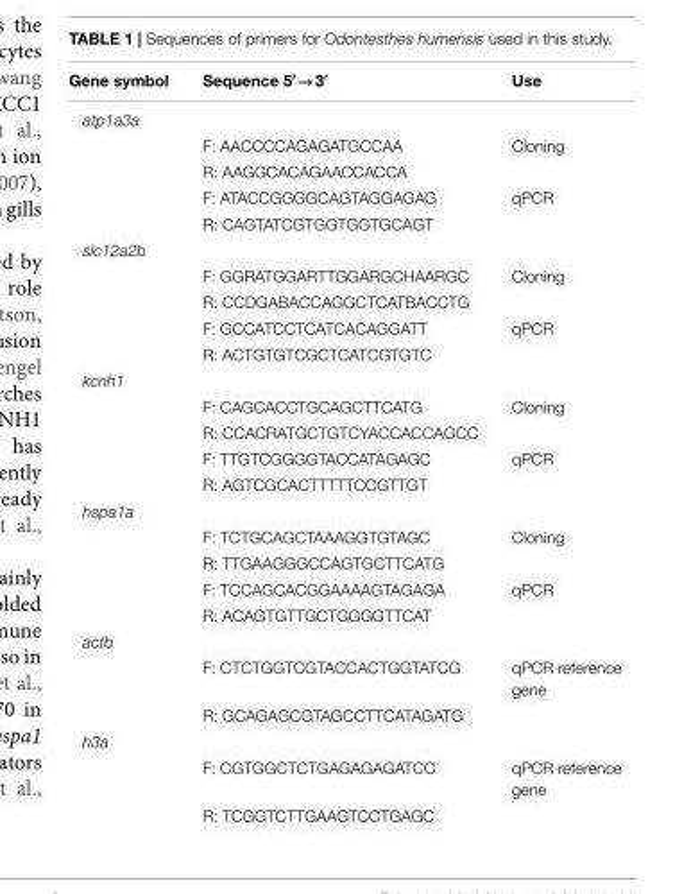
<table><thead><tr><td>Gene symbol</td><td>Sequence 5′→3′</td><td>Use</td></tr></thead><tbody><tr><td colspan="3">atp1a3a</td></tr><tr><td></td><td>F: AACCCCAGAGATGCCAA</td><td>Cloning</td></tr><tr><td></td><td>R: AAGGCACAGAACCACCA</td><td></td></tr><tr><td></td><td>F: ATACCGGGGCAGTAGGAGAG</td><td>qPCR</td></tr><tr><td></td><td>R: CAGTATCGTGGTGGTGCAGT</td><td></td></tr><tr><td colspan="3">slc12a2b</td></tr><tr><td></td><td>F: GGRATGGARTTGGARGCHAARGC</td><td>Cloning</td></tr><tr><td></td><td>R: CCDGABACCAGGCTCATBACCTG</td><td></td></tr><tr><td></td><td>F: GCCATCCTCATCACAGGATT</td><td>qPCR</td></tr><tr><td></td><td>R: ACTGTGTCGCTCATCGTGTC</td><td></td></tr><tr><td colspan="3">kcnh1</td></tr><tr><td></td><td>F: CAGCACCTGCAGCTTCATG</td><td>Cloning</td></tr><tr><td></td><td>R: CCACRATGCTGTCYACCACCAGCC</td><td></td></tr><tr><td></td><td>F: TTGTCGGGGTACCATAGAGC</td><td>qPCR</td></tr><tr><td></td><td>R: AGTCGCACTTTTTCCGTTGT</td><td></td></tr><tr><td colspan="3">hspa1a</td></tr><tr><td></td><td>F: TCTGCAGCTAAAGGTGTAGC</td><td>Cloning</td></tr><tr><td></td><td>R: TTGAAGGGCCAGTGCTTCATG</td><td></td></tr><tr><td></td><td>F: TCCAGCACGGAAAAGTAGAGA</td><td>qPCR</td></tr><tr><td></td><td>R: ACAGTGTTGCTGGGGTTCAT</td><td></td></tr><tr><td colspan="3">actb</td></tr><tr><td></td><td>F: CTCTGGTCGTACCACTGGTATCG</td><td>qPCR reference gene</td></tr><tr><td></td><td>R: GCAGAGCGTAGCCTTCATAGATG</td><td></td></tr><tr><td colspan="3">h3a</td></tr><tr><td></td><td>F: CGTGGCTCTGAGAGAGATCC</td><td>qPCR reference gene</td></tr><tr><td></td><td>R: TCGGTCTTGAAGTCCTGAGC</td><td></td></tr></tbody></table>